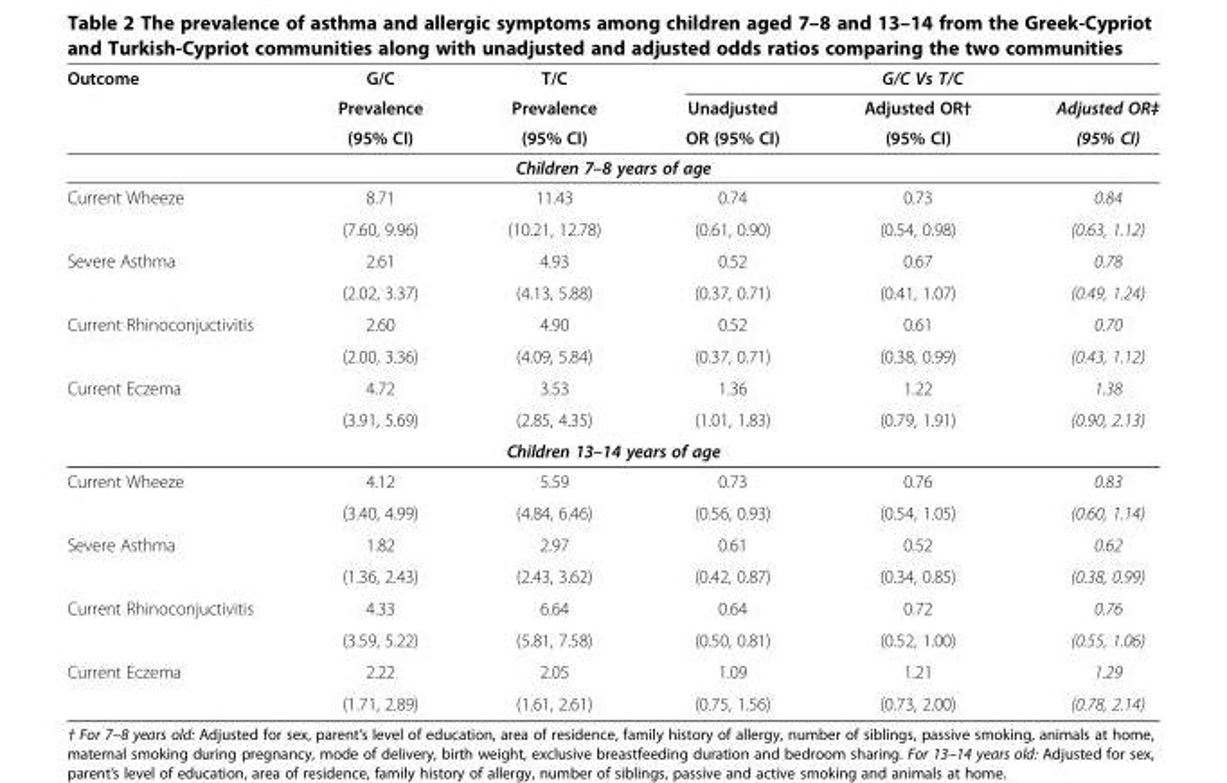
<table><thead><tr><td rowspan="3">Outcome</td><td rowspan="3">G/C Prevalence (95% CI)</td><td rowspan="3">T/C Prevalence (95% CI)</td><td colspan="3">G/C Vs T/C</td></tr><tr><td rowspan="2">Unadjusted OR (95% CI)</td><td rowspan="2">Adjusted OR† (95% CI)</td><td rowspan="2">Adjusted OR‡ (95% CI)</td></tr><tr></tr></thead><tbody><tr><td colspan="6">Children 7–8 years of age</td></tr><tr><td rowspan="2">Current Wheeze</td><td>8.71</td><td>11.43</td><td>0.74</td><td>0.73</td><td>0.84</td></tr><tr><td>(7.60, 9.96)</td><td>(10.21, 12.78)</td><td>(0.61, 0.90)</td><td>(0.54, 0.98)</td><td>(0.63, 1.12)</td></tr><tr><td rowspan="2">Severe Asthma</td><td>2.61</td><td>4.93</td><td>0.52</td><td>0.67</td><td>0.78</td></tr><tr><td>(2.02, 3.37)</td><td>(4.13, 5.88)</td><td>(0.37, 0.71)</td><td>(0.41, 1.07)</td><td>(0.49, 1.24)</td></tr><tr><td rowspan="2">Current Rhinoconjuctivitis</td><td>2.60</td><td>4.90</td><td>0.52</td><td>0.61</td><td>0.70</td></tr><tr><td>(2.00, 3.36)</td><td>(4.09, 5.84)</td><td>(0.37, 0.71)</td><td>(0.38, 0.99)</td><td>(0.43, 1.12)</td></tr><tr><td rowspan="2">Current Eczema</td><td>4.72</td><td>3.53</td><td>1.36</td><td>1.22</td><td>1.38</td></tr><tr><td>(3.91, 5.69)</td><td>(2.85, 4.35)</td><td>(1.01, 1.83)</td><td>(0.79, 1.91)</td><td>(0.90, 2.13)</td></tr><tr><td colspan="6">Children 13–14 years of age</td></tr><tr><td rowspan="2">Current Wheeze</td><td>4.12</td><td>5.59</td><td>0.73</td><td>0.76</td><td>0.83</td></tr><tr><td>(3.40, 4.99)</td><td>(4.84, 6.46)</td><td>(0.56, 0.93)</td><td>(0.54, 1.05)</td><td>(0.60, 1.14)</td></tr><tr><td rowspan="2">Severe Asthma</td><td>1.82</td><td>2.97</td><td>0.61</td><td>0.52</td><td>0.62</td></tr><tr><td>(1.36, 2.43)</td><td>(2.43, 3.62)</td><td>(0.42, 0.87)</td><td>(0.34, 0.85)</td><td>(0.38, 0.99)</td></tr><tr><td rowspan="2">Current Rhinoconjuctivitis</td><td>4.33</td><td>6.64</td><td>0.64</td><td>0.72</td><td>0.76</td></tr><tr><td>(3.59, 5.22)</td><td>(5.81, 7.58)</td><td>(0.50, 0.81)</td><td>(0.52, 1.00)</td><td>(0.55, 1.06)</td></tr><tr><td rowspan="2">Current Eczema</td><td>2.22</td><td>2.05</td><td>1.09</td><td>1.21</td><td>1.29</td></tr><tr><td>(1.71, 2.89)</td><td>(1.61, 2.61)</td><td>(0.75, 1.56)</td><td>(0.73, 2.00)</td><td>(0.78, 2.14)</td></tr></tbody></table>